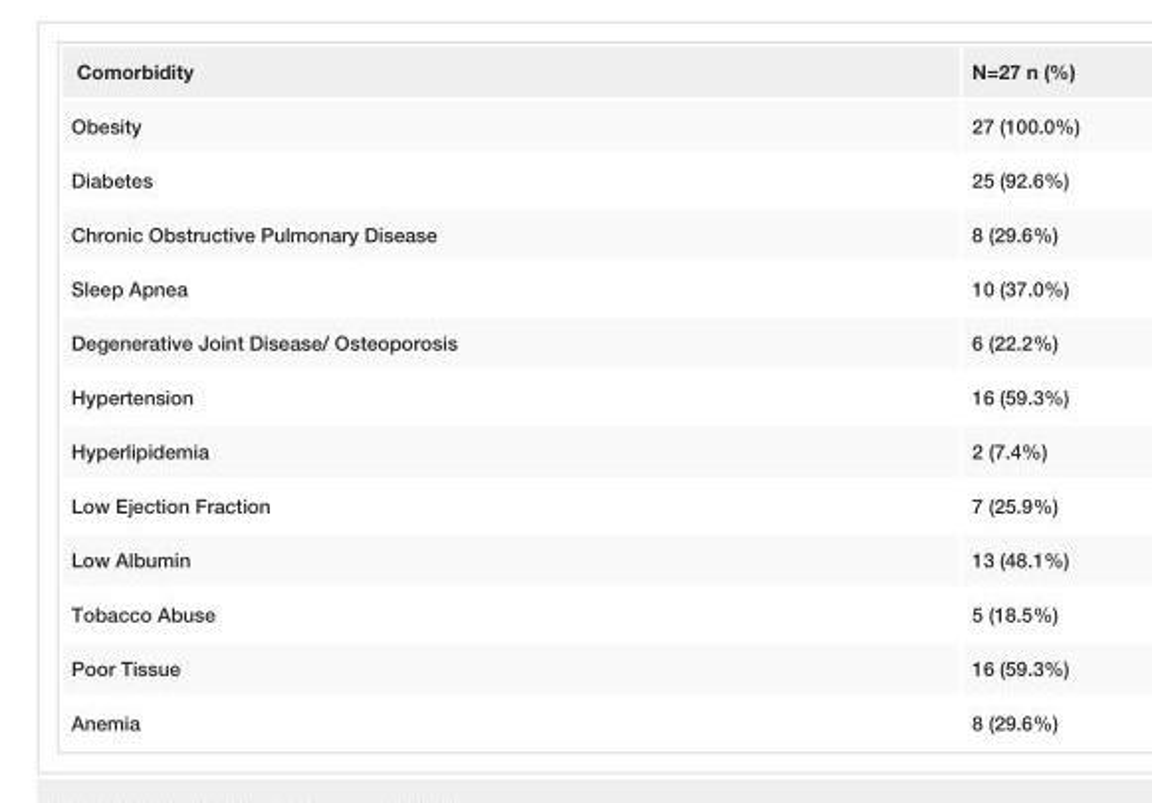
<table><tbody><tr><td>Comorbidity</td><td>N=27 n (%)</td></tr><tr><td>Obesity</td><td>27 (100.0%)</td></tr><tr><td>Diabetes</td><td>25 (92.6%)</td></tr><tr><td>Chronic Obstructive Pulmonary Disease</td><td>8 (29.6%)</td></tr><tr><td>Sleep Apnea</td><td>10 (37.0%)</td></tr><tr><td>Degenerative Joint Disease/ Osteoporosis</td><td>6 (22.2%)</td></tr><tr><td>Hypertension</td><td>16 (59.3%)</td></tr><tr><td>Hyperlipidemia</td><td>2 (7.4%)</td></tr><tr><td>Low Ejection Fraction</td><td>7 (25.9%)</td></tr><tr><td>Low Albumin</td><td>13 (48.1%)</td></tr><tr><td>Tobacco Abuse</td><td>5 (18.5%)</td></tr><tr><td>Poor Tissue</td><td>16 (59.3%)</td></tr><tr><td>Anemia</td><td>8 (29.6%)</td></tr></tbody></table>